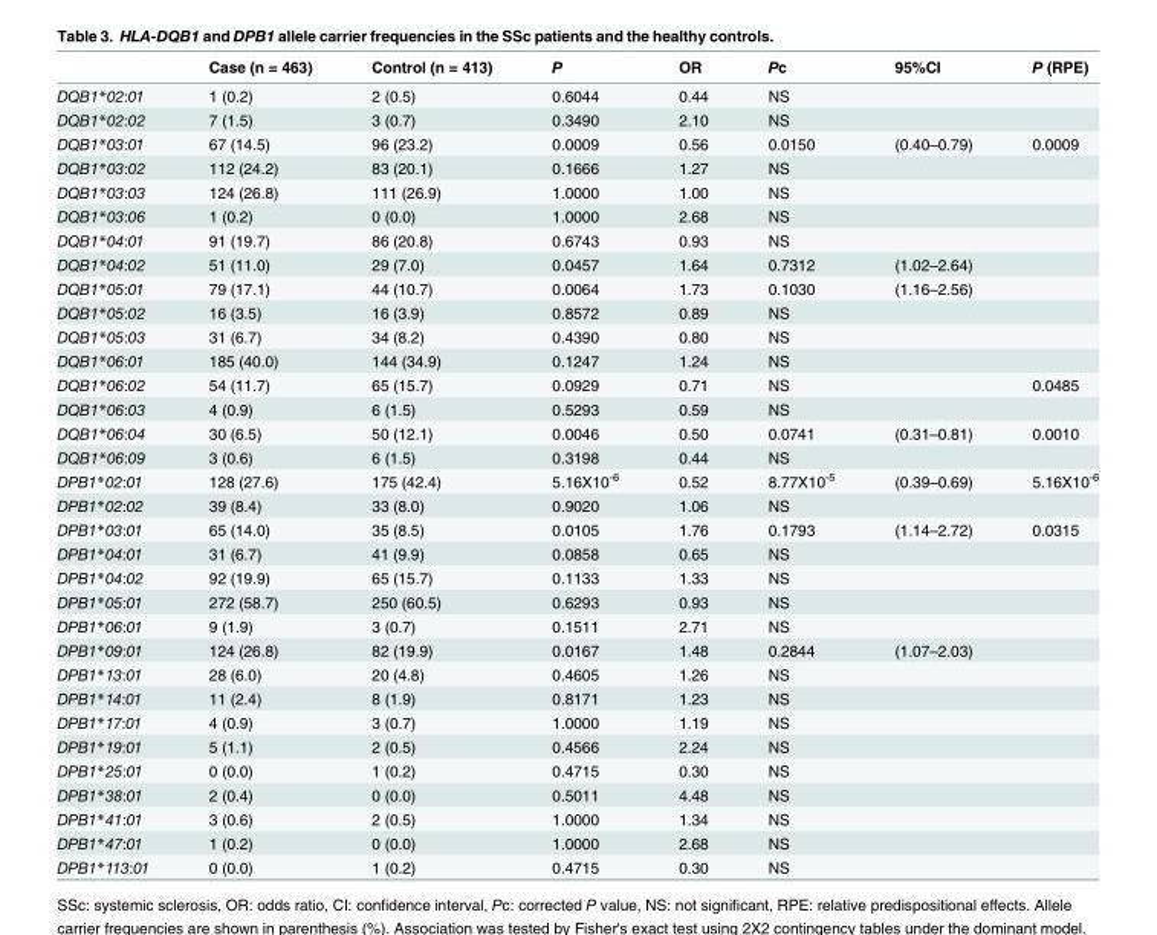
<table><thead><tr><td></td><td>Case (n = 463)</td><td>Control (n = 413)</td><td>P</td><td>OR</td><td>Pc</td><td>95%CI</td><td>P (RPE)</td></tr></thead><tbody><tr><td>DQB1*02:01</td><td>1 (0.2)</td><td>2 (0.5)</td><td>0.6044</td><td>0.44</td><td>NS</td><td></td><td></td></tr><tr><td>DQB1*02:02</td><td>7 (1.5)</td><td>3 (0.7)</td><td>0.3490</td><td>2.10</td><td>NS</td><td></td><td></td></tr><tr><td>DQB1*03:01</td><td>67 (14.5)</td><td>96 (23.2)</td><td>0.0009</td><td>0.56</td><td>0.0150</td><td>(0.40–0.79)</td><td>0.0009</td></tr><tr><td>DQB1*03:02</td><td>112 (24.2)</td><td>83 (20.1)</td><td>0.1666</td><td>1.27</td><td>NS</td><td></td><td></td></tr><tr><td>DQB1*03:03</td><td>124 (26.8)</td><td>111 (26.9)</td><td>1.0000</td><td>1.00</td><td>NS</td><td></td><td></td></tr><tr><td>DQB1*03:06</td><td>1 (0.2)</td><td>0 (0.0)</td><td>1.0000</td><td>2.68</td><td>NS</td><td></td><td></td></tr><tr><td>DQB1*04:01</td><td>91 (19.7)</td><td>86 (20.8)</td><td>0.6743</td><td>0.93</td><td>NS</td><td></td><td></td></tr><tr><td>DQB1*04:02</td><td>51 (11.0)</td><td>29 (7.0)</td><td>0.0457</td><td>1.64</td><td>0.7312</td><td>(1.02–2.64)</td><td></td></tr><tr><td>DQB1*05:01</td><td>79 (17.1)</td><td>44 (10.7)</td><td>0.0064</td><td>1.73</td><td>0.1030</td><td>(1.16–2.56)</td><td></td></tr><tr><td>DQB1*05:02</td><td>16 (3.5)</td><td>16 (3.9)</td><td>0.8572</td><td>0.89</td><td>NS</td><td></td><td></td></tr><tr><td>DQB1*05:03</td><td>31 (6.7)</td><td>34 (8.2)</td><td>0.4390</td><td>0.80</td><td>NS</td><td></td><td></td></tr><tr><td>DQB1*06:01</td><td>185 (40.0)</td><td>144 (34.9)</td><td>0.1247</td><td>1.24</td><td>NS</td><td></td><td></td></tr><tr><td>DQB1*06:02</td><td>54 (11.7)</td><td>65 (15.7)</td><td>0.0929</td><td>0.71</td><td>NS</td><td></td><td>0.0485</td></tr><tr><td>DQB1*06:03</td><td>4 (0.9)</td><td>6 (1.5)</td><td>0.5293</td><td>0.59</td><td>NS</td><td></td><td></td></tr><tr><td>DQB1*06:04</td><td>30 (6.5)</td><td>50 (12.1)</td><td>0.0046</td><td>0.50</td><td>0.0741</td><td>(0.31–0.81)</td><td>0.0010</td></tr><tr><td>DQB1*06:09</td><td>3 (0.6)</td><td>6 (1.5)</td><td>0.3198</td><td>0.44</td><td>NS</td><td></td><td></td></tr><tr><td>DPB1*02:01</td><td>128 (27.6)</td><td>175 (42.4)</td><td>5.16X10<sup>-6</sup></td><td>0.52</td><td>8.77X10<sup>-5</sup></td><td>(0.39–0.69)</td><td>5.16X10<sup>-6</sup></td></tr><tr><td>DPB1*02:02</td><td>39 (8.4)</td><td>33 (8.0)</td><td>0.9020</td><td>1.06</td><td>NS</td><td></td><td></td></tr><tr><td>DPB1*03:01</td><td>65 (14.0)</td><td>35 (8.5)</td><td>0.0105</td><td>1.76</td><td>0.1793</td><td>(1.14–2.72)</td><td>0.0315</td></tr><tr><td>DPB1*04:01</td><td>31 (6.7)</td><td>41 (9.9)</td><td>0.0858</td><td>0.65</td><td>NS</td><td></td><td></td></tr><tr><td>DPB1*04:02</td><td>92 (19.9)</td><td>65 (15.7)</td><td>0.1133</td><td>1.33</td><td>NS</td><td></td><td></td></tr><tr><td>DPB1*05:01</td><td>272 (58.7)</td><td>250 (60.5)</td><td>0.6293</td><td>0.93</td><td>NS</td><td></td><td></td></tr><tr><td>DPB1*06:01</td><td>9 (1.9)</td><td>3 (0.7)</td><td>0.1511</td><td>2.71</td><td>NS</td><td></td><td></td></tr><tr><td>DPB1*09:01</td><td>124 (26.8)</td><td>82 (19.9)</td><td>0.0167</td><td>1.48</td><td>0.2844</td><td>(1.07–2.03)</td><td></td></tr><tr><td>DPB1*13:01</td><td>28 (6.0)</td><td>20 (4.8)</td><td>0.4605</td><td>1.26</td><td>NS</td><td></td><td></td></tr><tr><td>DPB1*14:01</td><td>11 (2.4)</td><td>8 (1.9)</td><td>0.8171</td><td>1.23</td><td>NS</td><td></td><td></td></tr><tr><td>DPB1*17:01</td><td>4 (0.9)</td><td>3 (0.7)</td><td>1.0000</td><td>1.19</td><td>NS</td><td></td><td></td></tr><tr><td>DPB1*19:01</td><td>5 (1.1)</td><td>2 (0.5)</td><td>0.4566</td><td>2.24</td><td>NS</td><td></td><td></td></tr><tr><td>DPB1*25:01</td><td>0 (0.0)</td><td>1 (0.2)</td><td>0.4715</td><td>0.30</td><td>NS</td><td></td><td></td></tr><tr><td>DPB1*38:01</td><td>2 (0.4)</td><td>0 (0.0)</td><td>0.5011</td><td>4.48</td><td>NS</td><td></td><td></td></tr><tr><td>DPB1*41:01</td><td>3 (0.6)</td><td>2 (0.5)</td><td>1.0000</td><td>1.34</td><td>NS</td><td></td><td></td></tr><tr><td>DPB1*47:01</td><td>1 (0.2)</td><td>0 (0.0)</td><td>1.0000</td><td>2.68</td><td>NS</td><td></td><td></td></tr><tr><td>DPB1*113:01</td><td>0 (0.0)</td><td>1 (0.2)</td><td>0.4715</td><td>0.30</td><td>NS</td><td></td><td></td></tr></tbody></table>